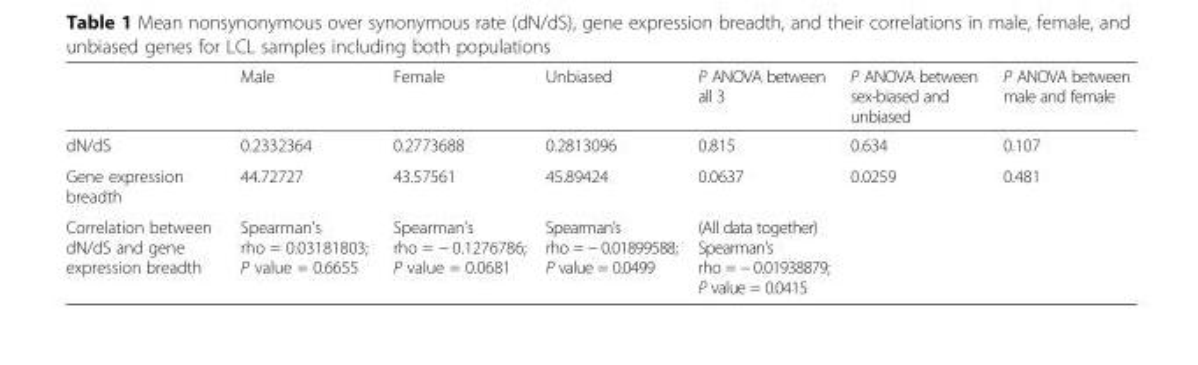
<table><thead><tr><td></td><td>Male</td><td>Female</td><td>Unbiased</td><td>P ANOVA between all 3</td><td>P ANOVA between sex-biased and unbiased</td><td>P ANOVA between male and female</td></tr></thead><tbody><tr><td>dN/dS</td><td>0.2332364</td><td>0.2773688</td><td>0.2813096</td><td>0.815</td><td>0.634</td><td>0.107</td></tr><tr><td>Gene expression breadth</td><td>44.72727</td><td>43.57561</td><td>45.89424</td><td>0.0637</td><td>0.0259</td><td>0.481</td></tr><tr><td>Correlation between dN/dS and gene expression breadth</td><td>Spearman’s rho = 0.03181803; P value = 0.6655</td><td>Spearman’s rho = − 0.1276786; P value = 0.0681</td><td>Spearman’s rho = − 0.01899588; P value = 0.0499</td><td>(All data together) Spearman’s rho = − 0.01938879; P value = 0.0415</td><td></td><td></td></tr></tbody></table>